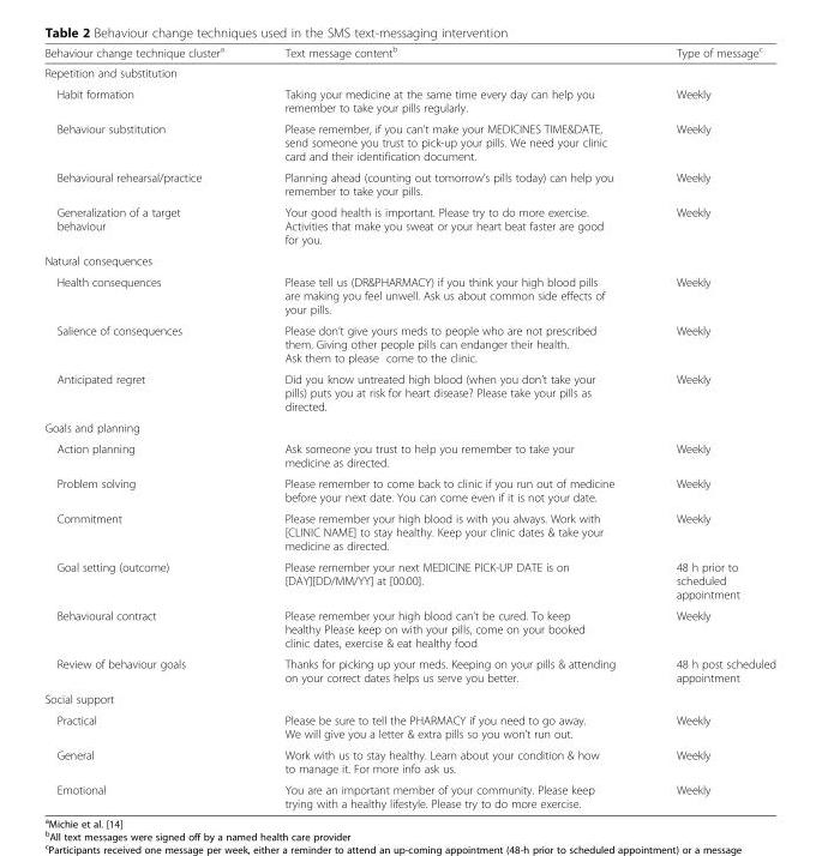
<table><thead><tr><td>Behaviour change technique cluster<sup>a</sup></td><td>Text message content<sup>b</sup></td><td>Type of message<sup>c</sup></td></tr></thead><tbody><tr><td colspan="3">Repetition and substitution</td></tr><tr><td>Habit formation</td><td>Taking your medicine at the same time every day can help you remember to take your pills regularly.</td><td>Weekly</td></tr><tr><td>Behaviour substitution</td><td>Please remember, if you can’t make your MEDICINES TIME&amp;DATE, send someone you trust to pick-up your pills. We need your clinic card and their identification document.</td><td>Weekly</td></tr><tr><td>Behavioural rehearsal/practice</td><td>Planning ahead (counting out tomorrow’s pills today) can help you remember to take your pills.</td><td>Weekly</td></tr><tr><td>Generalization of a target behaviour</td><td>Your good health is important. Please try to do more exercise. Activities that make you sweat or your heart beat faster are good for you.</td><td>Weekly</td></tr><tr><td colspan="3">Natural consequences</td></tr><tr><td>Health consequences</td><td>Please tell us (DR&amp;PHARMACY) if you think your high blood pills are making you feel unwell. Ask us about common side effects of your pills.</td><td>Weekly</td></tr><tr><td>Salience of consequences</td><td>Please don’t give yours meds to people who are not prescribed them. Giving other people pills can endanger their health. Ask them to please come to the clinic.</td><td>Weekly</td></tr><tr><td>Anticipated regret</td><td>Did you know untreated high blood (when you don’t take your pills) puts you at risk for heart disease? Please take your pills as directed.</td><td>Weekly</td></tr><tr><td colspan="3">Goals and planning</td></tr><tr><td>Action planning</td><td>Ask someone you trust to help you remember to take your medicine as directed.</td><td>Weekly</td></tr><tr><td>Problem solving</td><td>Please remember to come back to clinic if you run out of medicine before your next date. You can come even if it is not your date.</td><td>Weekly</td></tr><tr><td>Commitment</td><td>Please remember your high blood is with you always. Work with [CLINIC NAME] to stay healthy. Keep your clinic dates &amp; take your medicine as directed.</td><td>Weekly</td></tr><tr><td>Goal setting (outcome)</td><td>Please remember your next MEDICINE PICK-UP DATE is on [DAY][DD/MM/YY] at [00:00].</td><td>48 h prior to scheduled appointment</td></tr><tr><td>Behavioural contract</td><td>Please remember your high blood can’t be cured. To keep healthy Please keep on with your pills, come on your booked clinic dates, exercise &amp; eat healthy food</td><td>Weekly</td></tr><tr><td>Review of behaviour goals</td><td>Thanks for picking up your meds. Keeping on your pills &amp; attending on your correct dates helps us serve you better.</td><td>48 h post scheduled appointment</td></tr><tr><td colspan="3">Social support</td></tr><tr><td>Practical</td><td>Please be sure to tell the PHARMACY if you need to go away. We will give you a letter &amp; extra pills so you won’t run out.</td><td>Weekly</td></tr><tr><td>General</td><td>Work with us to stay healthy. Learn about your condition &amp; how to manage it. For more info ask us.</td><td>Weekly</td></tr><tr><td>Emotional</td><td>You are an important member of your community. Please keep trying with a healthy lifestyle. Please try to do more exercise.</td><td>Weekly</td></tr></tbody></table>